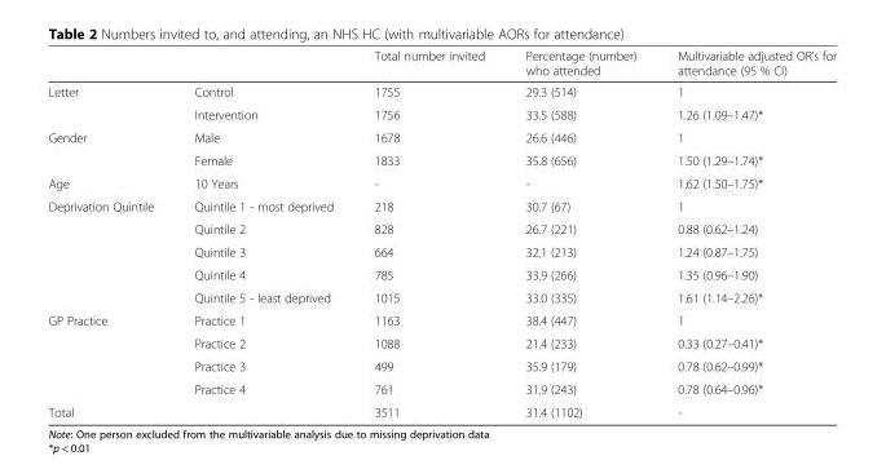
<table><thead><tr><td></td><td></td><td>Total number invited</td><td>Percentage (number) who attended</td><td>Multivariable adjusted OR’s for attendance (95 % CI)</td></tr></thead><tbody><tr><td rowspan="2">Letter</td><td>Control</td><td>1755</td><td>29.3 (514)</td><td>1</td></tr><tr><td>Intervention</td><td>1756</td><td>33.5 (588)</td><td>1.26 (1.09–1.47)*</td></tr><tr><td rowspan="2">Gender</td><td>Male</td><td>1678</td><td>26.6 (446)</td><td>1</td></tr><tr><td>Female</td><td>1833</td><td>35.8 (656)</td><td>1.50 (1.29–1.74)*</td></tr><tr><td>Age</td><td>10 Years</td><td>-</td><td>-</td><td>1.62 (1.50–1.75)*</td></tr><tr><td rowspan="5">Deprivation Quintile</td><td>Quintile 1 - most deprived</td><td>218</td><td>30.7 (67)</td><td>1</td></tr><tr><td>Quintile 2</td><td>828</td><td>26.7 (221)</td><td>0.88 (0.62–1.24)</td></tr><tr><td>Quintile 3</td><td>664</td><td>32.1 (213)</td><td>1.24 (0.87–1.75)</td></tr><tr><td>Quintile 4</td><td>785</td><td>33.9 (266)</td><td>1.35 (0.96–1.90)</td></tr><tr><td>Quintile 5 - least deprived</td><td>1015</td><td>33.0 (335)</td><td>1.61 (1.14–2.26)*</td></tr><tr><td rowspan="4">GP Practice</td><td>Practice 1</td><td>1163</td><td>38.4 (447)</td><td>1</td></tr><tr><td>Practice 2</td><td>1088</td><td>21.4 (233)</td><td>0.33 (0.27–0.41)*</td></tr><tr><td>Practice 3</td><td>499</td><td>35.9 (179)</td><td>0.78 (0.62–0.99)*</td></tr><tr><td>Practice 4</td><td>761</td><td>31.9 (243)</td><td>0.78 (0.64–0.96)*</td></tr><tr><td>Total</td><td></td><td>3511</td><td>31.4 (1102)</td><td>-</td></tr></tbody></table>